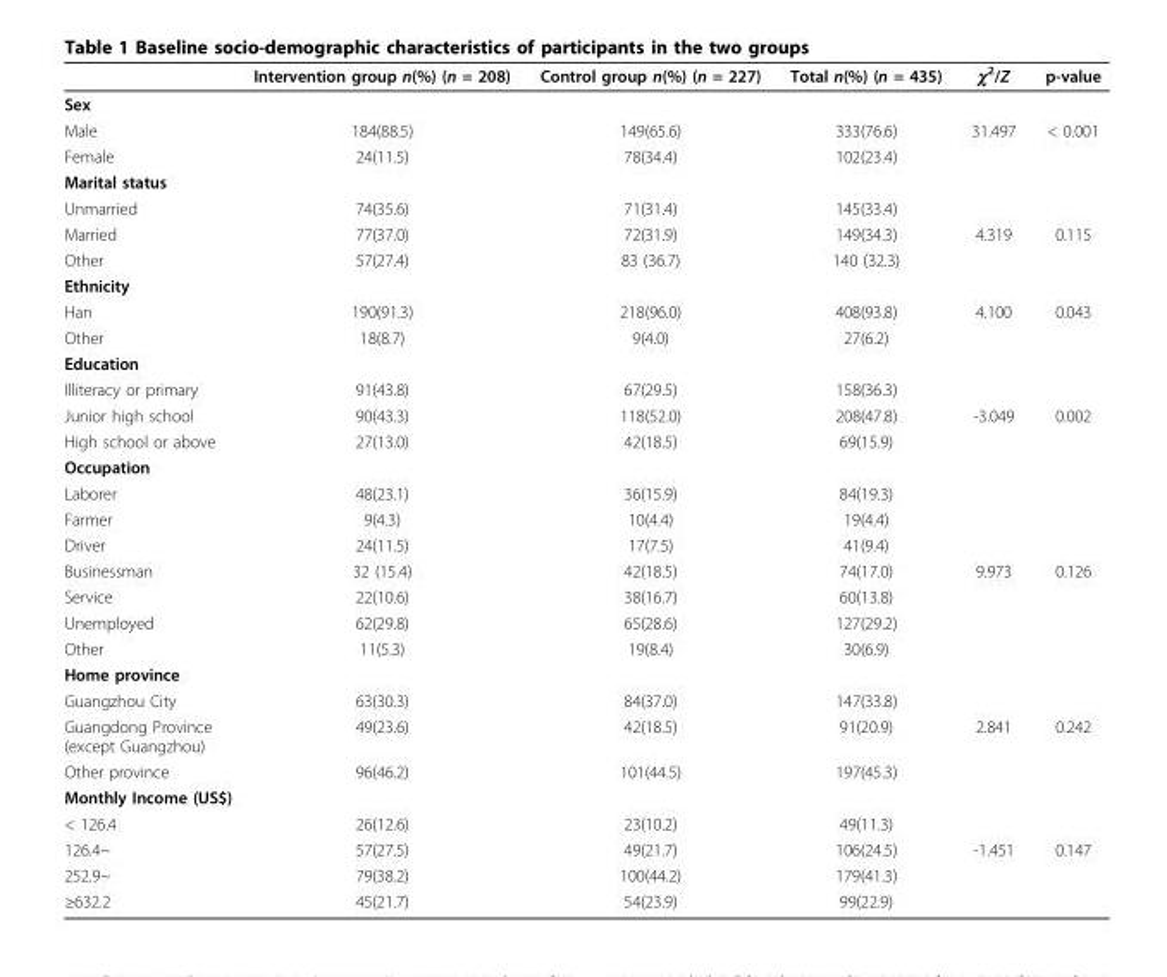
<table><thead><tr><td></td><td>Intervention group n(%) (n = 208)</td><td>Control group n(%) (n = 227)</td><td>Total n(%) (n = 435)</td><td>χ<sup>2</sup>/Z</td><td>p-value</td></tr></thead><tbody><tr><td colspan="6">Sex</td></tr><tr><td>Male</td><td>184(88.5)</td><td>149(65.6)</td><td>333(76.6)</td><td>31.497</td><td>&lt; 0.001</td></tr><tr><td>Female</td><td>24(11.5)</td><td>78(34.4)</td><td>102(23.4)</td><td></td><td></td></tr><tr><td colspan="6">Marital status</td></tr><tr><td>Unmarried</td><td>74(35.6)</td><td>71(31.4)</td><td>145(33.4)</td><td></td><td></td></tr><tr><td>Married</td><td>77(37.0)</td><td>72(31.9)</td><td>149(34.3)</td><td>4.319</td><td>0.115</td></tr><tr><td>Other</td><td>57(27.4)</td><td>83 (36.7)</td><td>140 (32.3)</td><td></td><td></td></tr><tr><td colspan="6">Ethnicity</td></tr><tr><td>Han</td><td>190(91.3)</td><td>218(96.0)</td><td>408(93.8)</td><td>4.100</td><td>0.043</td></tr><tr><td>Other</td><td>18(8.7)</td><td>9(4.0)</td><td>27(6.2)</td><td></td><td></td></tr><tr><td colspan="6">Education</td></tr><tr><td>Illiteracy or primary</td><td>91(43.8)</td><td>67(29.5)</td><td>158(36.3)</td><td></td><td></td></tr><tr><td>Junior high school</td><td>90(43.3)</td><td>118(52.0)</td><td>208(47.8)</td><td>-3.049</td><td>0.002</td></tr><tr><td>High school or above</td><td>27(13.0)</td><td>42(18.5)</td><td>69(15.9)</td><td></td><td></td></tr><tr><td colspan="6">Occupation</td></tr><tr><td>Laborer</td><td>48(23.1)</td><td>36(15.9)</td><td>84(19.3)</td><td></td><td></td></tr><tr><td>Farmer</td><td>9(4.3)</td><td>10(4.4)</td><td>19(4.4)</td><td></td><td></td></tr><tr><td>Driver</td><td>24(11.5)</td><td>17(7.5)</td><td>41(9.4)</td><td></td><td></td></tr><tr><td>Businessman</td><td>32 (15.4)</td><td>42(18.5)</td><td>74(17.0)</td><td>9.973</td><td>0.126</td></tr><tr><td>Service</td><td>22(10.6)</td><td>38(16.7)</td><td>60(13.8)</td><td></td><td></td></tr><tr><td>Unemployed</td><td>62(29.8)</td><td>65(28.6)</td><td>127(29.2)</td><td></td><td></td></tr><tr><td>Other</td><td>11(5.3)</td><td>19(8.4)</td><td>30(6.9)</td><td></td><td></td></tr><tr><td colspan="6">Home province</td></tr><tr><td>Guangzhou City</td><td>63(30.3)</td><td>84(37.0)</td><td>147(33.8)</td><td></td><td></td></tr><tr><td>Guangdong Province (except Guangzhou)</td><td>49(23.6)</td><td>42(18.5)</td><td>91(20.9)</td><td>2.841</td><td>0.242</td></tr><tr><td>Other province</td><td>96(46.2)</td><td>101(44.5)</td><td>197(45.3)</td><td></td><td></td></tr><tr><td colspan="6">Monthly Income (US$)</td></tr><tr><td>&lt; 126.4</td><td>26(12.6)</td><td>23(10.2)</td><td>49(11.3)</td><td></td><td></td></tr><tr><td>126.4~</td><td>57(27.5)</td><td>49(21.7)</td><td>106(24.5)</td><td>-1.451</td><td>0.147</td></tr><tr><td>252.9~</td><td>79(38.2)</td><td>100(44.2)</td><td>179(41.3)</td><td></td><td></td></tr><tr><td>≥632.2</td><td>45(21.7)</td><td>54(23.9)</td><td>99(22.9)</td><td></td><td></td></tr></tbody></table>